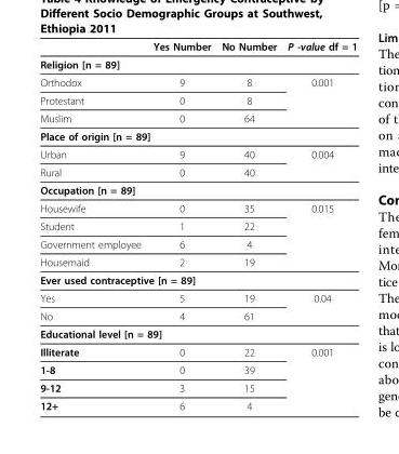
<table><thead><tr><td></td><td>Yes Number</td><td>No Number</td><td>P -value df = 1</td></tr></thead><tbody><tr><td colspan="4">Religion [n = 89]</td></tr><tr><td>Orthodox</td><td>9</td><td>8</td><td>0.001</td></tr><tr><td>Protestant</td><td>0</td><td>8</td><td></td></tr><tr><td>Muslim</td><td>0</td><td>64</td><td></td></tr><tr><td colspan="4">Place of origin [n = 89]</td></tr><tr><td>Urban</td><td>9</td><td>40</td><td>0.004</td></tr><tr><td>Rural</td><td>0</td><td>40</td><td></td></tr><tr><td colspan="4">Occupation [n = 89]</td></tr><tr><td>Housewife</td><td>0</td><td>35</td><td>0.015</td></tr><tr><td>Student</td><td>1</td><td>22</td><td></td></tr><tr><td>Government employee</td><td>6</td><td>4</td><td></td></tr><tr><td>Housemaid</td><td>2</td><td>19</td><td></td></tr><tr><td colspan="4">Ever used contraceptive [n = 89]</td></tr><tr><td>Yes</td><td>5</td><td>19</td><td>0.04</td></tr><tr><td>No</td><td>4</td><td>61</td><td></td></tr><tr><td colspan="4">Educational level [n = 89]</td></tr><tr><td>Illiterate</td><td>0</td><td>22</td><td>0.001</td></tr><tr><td>1-8</td><td>0</td><td>39</td><td></td></tr><tr><td>9-12</td><td>3</td><td>15</td><td></td></tr><tr><td>12+</td><td>6</td><td>4</td><td></td></tr></tbody></table>